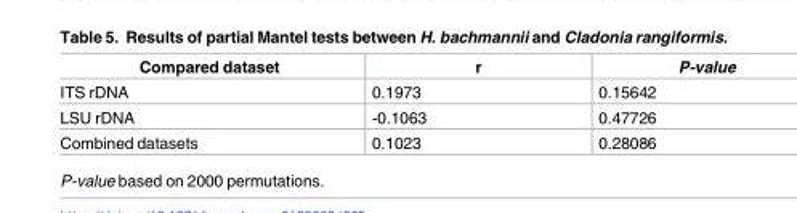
<table><thead><tr><td>Compared dataset</td><td>r</td><td>P-value</td></tr></thead><tbody><tr><td>ITS rDNA</td><td>0.1973</td><td>0.15642</td></tr><tr><td>LSU rDNA</td><td>-0.1063</td><td>0.47726</td></tr><tr><td>Combined datasets</td><td>0.1023</td><td>0.28086</td></tr></tbody></table>